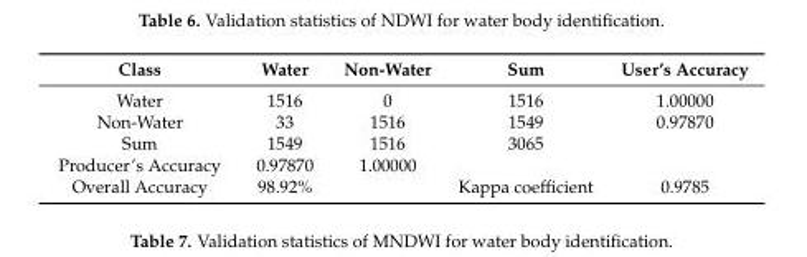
<table><thead><tr><td>Class</td><td>Water</td><td>Non-Water</td><td>Sum</td><td>User’s Accuracy</td></tr></thead><tbody><tr><td>Water</td><td>1516</td><td>0</td><td>1516</td><td>1.00000</td></tr><tr><td>Non-Water</td><td>33</td><td>1516</td><td>1549</td><td>0.97870</td></tr><tr><td>Sum</td><td>1549</td><td>1516</td><td>3065</td><td></td></tr><tr><td>Producer’s Accuracy</td><td>0.97870</td><td>1.00000</td><td></td><td></td></tr><tr><td>Overall Accuracy</td><td>98.92%</td><td></td><td>Kappa coefficient</td><td>0.9785</td></tr></tbody></table>